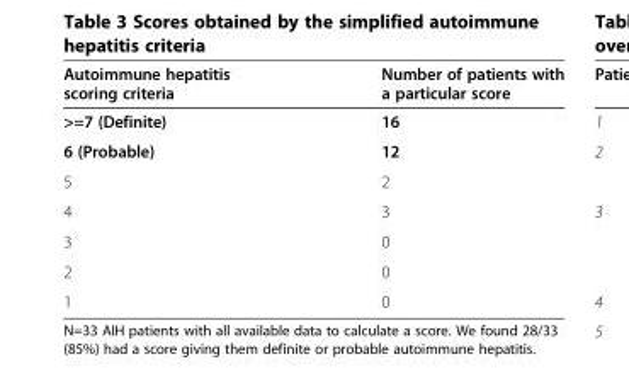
<table><thead><tr><td>Autoimmune hepatitis scoring criteria</td><td>Number of patients with a particular score</td></tr></thead><tbody><tr><td>&gt;=7 (Definite)</td><td>16</td></tr><tr><td>6 (Probable)</td><td>12</td></tr><tr><td>5</td><td>2</td></tr><tr><td>4</td><td>3</td></tr><tr><td>3</td><td>0</td></tr><tr><td>2</td><td>0</td></tr><tr><td>1</td><td>0</td></tr></tbody></table>